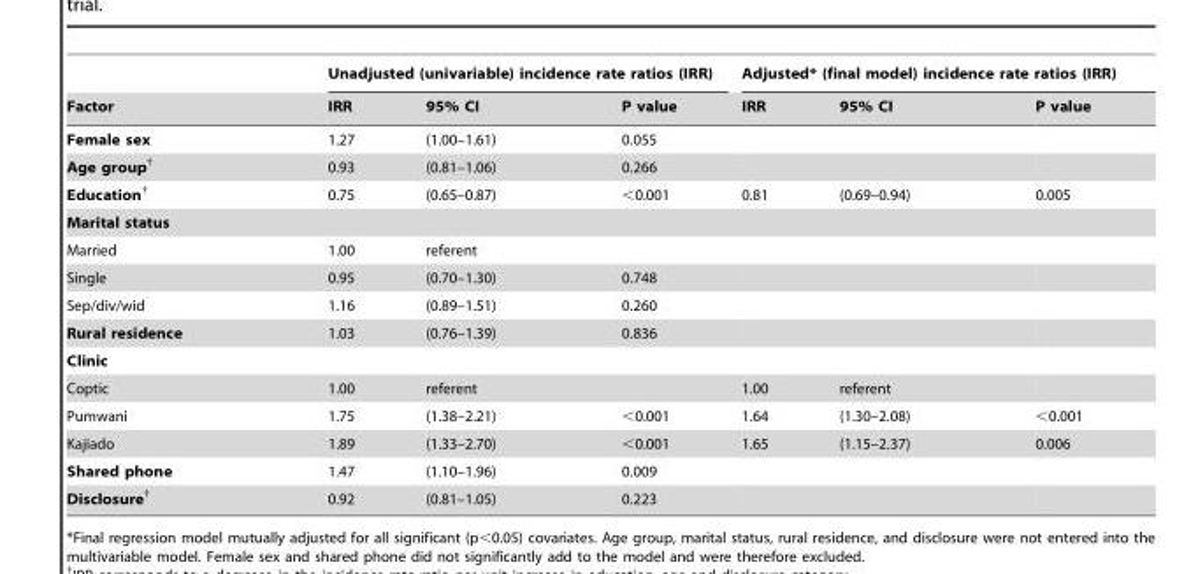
<table><thead><tr><td rowspan="2">Factor</td><td colspan="3">Unadjusted (univariable) incidence rate ratios (IRR)</td><td colspan="3">Adjusted* (final model) incidence rate ratios (IRR)</td></tr><tr><td>IRR</td><td>95% CI</td><td>P value</td><td>IRR</td><td>95% CI</td><td>P value</td></tr></thead><tbody><tr><td>Female sex</td><td>1.27</td><td>(1.00–1.61)</td><td>0.055</td><td></td><td></td><td></td></tr><tr><td>Age group†</td><td>0.93</td><td>(0.81–1.06)</td><td>0.266</td><td></td><td></td><td></td></tr><tr><td>Education†</td><td>0.75</td><td>(0.65–0.87)</td><td>&lt;0.001</td><td>0.81</td><td>(0.69–0.94)</td><td>0.005</td></tr><tr><td colspan="7">Marital status</td></tr><tr><td>Married</td><td>1.00</td><td>referent</td><td></td><td></td><td></td><td></td></tr><tr><td>Single</td><td>0.95</td><td>(0.70–1.30)</td><td>0.748</td><td></td><td></td><td></td></tr><tr><td>Sep/div/wid</td><td>1.16</td><td>(0.89–1.51)</td><td>0.260</td><td></td><td></td><td></td></tr><tr><td>Rural residence</td><td>1.03</td><td>(0.76–1.39)</td><td>0.836</td><td></td><td></td><td></td></tr><tr><td colspan="7">Clinic</td></tr><tr><td>Coptic</td><td>1.00</td><td>referent</td><td></td><td>1.00</td><td>referent</td><td></td></tr><tr><td>Pumwani</td><td>1.75</td><td>(1.38–2.21)</td><td>&lt;0.001</td><td>1.64</td><td>(1.30–2.08)</td><td>&lt;0.001</td></tr><tr><td>Kajiado</td><td>1.89</td><td>(1.33–2.70)</td><td>&lt;0.001</td><td>1.65</td><td>(1.15–2.37)</td><td>0.006</td></tr><tr><td>Shared phone</td><td>1.47</td><td>(1.10–1.96)</td><td>0.009</td><td></td><td></td><td></td></tr><tr><td>Disclosure†</td><td>0.92</td><td>(0.81–1.05)</td><td>0.223</td><td></td><td></td><td></td></tr></tbody></table>